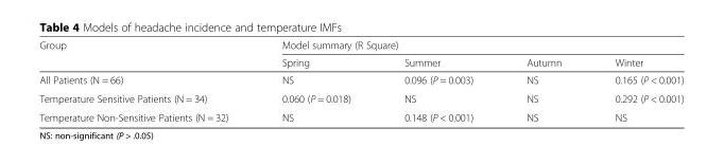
<table><thead><tr><td rowspan="2">Group</td><td colspan="4">Model summary (R Square)</td></tr><tr><td>Spring</td><td>Summer</td><td>Autumn</td><td>Winter</td></tr></thead><tbody><tr><td>All Patients (N = 66)</td><td>NS</td><td>0.096 (P = 0.003)</td><td>NS</td><td>0.165 (P &lt; 0.001)</td></tr><tr><td>Temperature Sensitive Patients (N = 34)</td><td>0.060 (P = 0.018)</td><td>NS</td><td>NS</td><td>0.292 (P &lt; 0.001)</td></tr><tr><td>Temperature Non-Sensitive Patients (N = 32)</td><td>NS</td><td>0.148 (P &lt; 0.001)</td><td>NS</td><td>NS</td></tr></tbody></table>